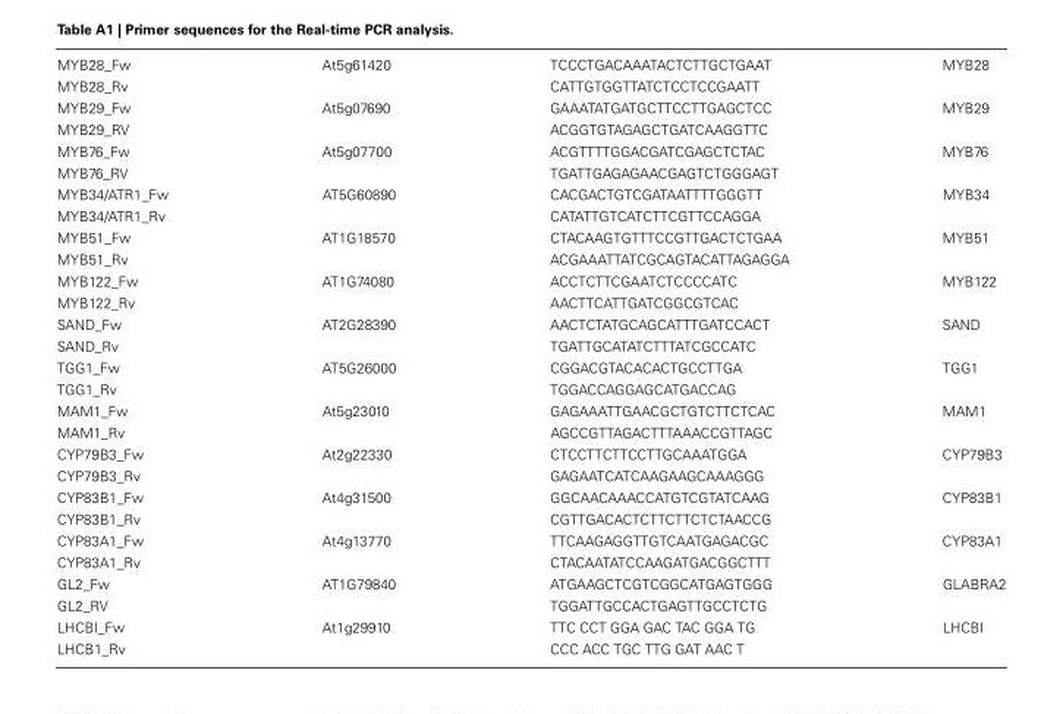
<table><tbody><tr><td>MYB28_Fw</td><td>At5g61420</td><td>TCCCTGACAAATACTCTTGCTGAAT</td><td>MYB28</td></tr><tr><td>MYB28_Rv</td><td></td><td>CATTGTGGTTATCTCCTCCGAATT</td><td></td></tr><tr><td>MYB29_Fw</td><td>At5g07690</td><td>GAAATATGATGCTTCCTTGAGCTCC</td><td>MYB29</td></tr><tr><td>MYB29_RV</td><td></td><td>ACGGTGTAGAGCTGATCAAGGTTC</td><td></td></tr><tr><td>MYB76_Fw</td><td>At5g07700</td><td>ACGTTTTGGACGATCGAGCTCTAC</td><td>MYB76</td></tr><tr><td>MYB76_RV</td><td></td><td>TGATTGAGAGAACGAGTCTGGGAGT</td><td></td></tr><tr><td>MYB34/ATR1_Fw</td><td>AT5G60890</td><td>CACGACTGTCGATAATTTTGGGTT</td><td>MYB34</td></tr><tr><td>MYB34/ATR1_Rv</td><td></td><td>CATATTGTCATCTTCGTTCCAGGA</td><td></td></tr><tr><td>MYB51_Fw</td><td>AT1G18570</td><td>CTACAAGTGTTTCCGTTGACTCTGAA</td><td>MYB51</td></tr><tr><td>MYB51_Rv</td><td></td><td>ACGAAATTATCGCAGTACATTAGAGGA</td><td></td></tr><tr><td>MYB122_Fw</td><td>AT1G74080</td><td>ACCTCTTCGAATCTCCCCATC</td><td>MYB122</td></tr><tr><td>MYB122_Rv</td><td></td><td>AACTTCATTGATCGGCGTCAC</td><td></td></tr><tr><td>SAND_Fw</td><td>AT2G28390</td><td>AACTCTATGCAGCATTTGATCCACT</td><td>SAND</td></tr><tr><td>SAND_Rv</td><td></td><td>TGATTGCATATCTTTATCGCCATC</td><td></td></tr><tr><td>TGG1_Fw</td><td>AT5G26000</td><td>CGGACGTACACACTGCCTTGA</td><td>TGG1</td></tr><tr><td>TGG1_Rv</td><td></td><td>TGGACCAGGAGCATGACCAG</td><td></td></tr><tr><td>MAM1_Fw</td><td>At5g23010</td><td>GAGAAATTGAACGCTGTCTTCTCAC</td><td>MAM1</td></tr><tr><td>MAM1_Rv</td><td></td><td>AGCCGTTAGACTTTAAACCGTTAGC</td><td></td></tr><tr><td>CYP79B3_Fw</td><td>At2g22330</td><td>CTCCTTCTTCCTTGCAAATGGA</td><td>CYP79B3</td></tr><tr><td>CYP79B3_Rv</td><td></td><td>GAGAATCATCAAGAAGCAAAGGG</td><td></td></tr><tr><td>CYP83B1_Fw</td><td>At4g31500</td><td>GGCAACAAACCATGTCGTATCAAG</td><td>CYP83B1</td></tr><tr><td>CYP83B1_Rv</td><td></td><td>CGTTGACACTCTTCTTCTCTAACCG</td><td></td></tr><tr><td>CYP83A1_Fw</td><td>At4g13770</td><td>TTCAAGAGGTTGTCAATGAGACGC</td><td>CYP83A1</td></tr><tr><td>CYP83A1_Rv</td><td></td><td>CTACAATATCCAAGATGACGGCTTT</td><td></td></tr><tr><td>GL2_Fw</td><td>AT1G79840</td><td>ATGAAGCTCGTCGGCATGAGTGGG</td><td>GLABRA2</td></tr><tr><td>GL2_RV</td><td></td><td>TGGATTGCCACTGAGTTGCCTCTG</td><td></td></tr><tr><td>LHCBI_Fw</td><td>At1g29910</td><td>TTC CCT GGA GAC TAC GGA TG</td><td>LHCBI</td></tr><tr><td>LHCB1_Rv</td><td></td><td>CCC ACC TGC TTG GAT AAC T</td><td></td></tr></tbody></table>